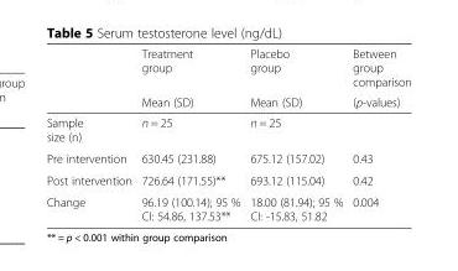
<table><thead><tr><td rowspan="2"></td><td rowspan="2">Treatment group Mean (SD)</td><td rowspan="2">Placebo group Mean (SD)</td><td rowspan="2">Between group comparison (p-values)</td></tr><tr></tr></thead><tbody><tr><td>Sample size (n)</td><td>n = 25</td><td>n = 25</td><td></td></tr><tr><td>Pre intervention</td><td>630.45 (231.88)</td><td>675.12 (157.02)</td><td>0.43</td></tr><tr><td>Post intervention</td><td>726.64 (171.55)**</td><td>693.12 (115.04)</td><td>0.42</td></tr><tr><td>Change</td><td>96.19 (100.14); 95 % CI: 54.86, 137.53**</td><td>18.00 (81.94); 95 % CI: -15.83, 51.82</td><td>0.004</td></tr></tbody></table>